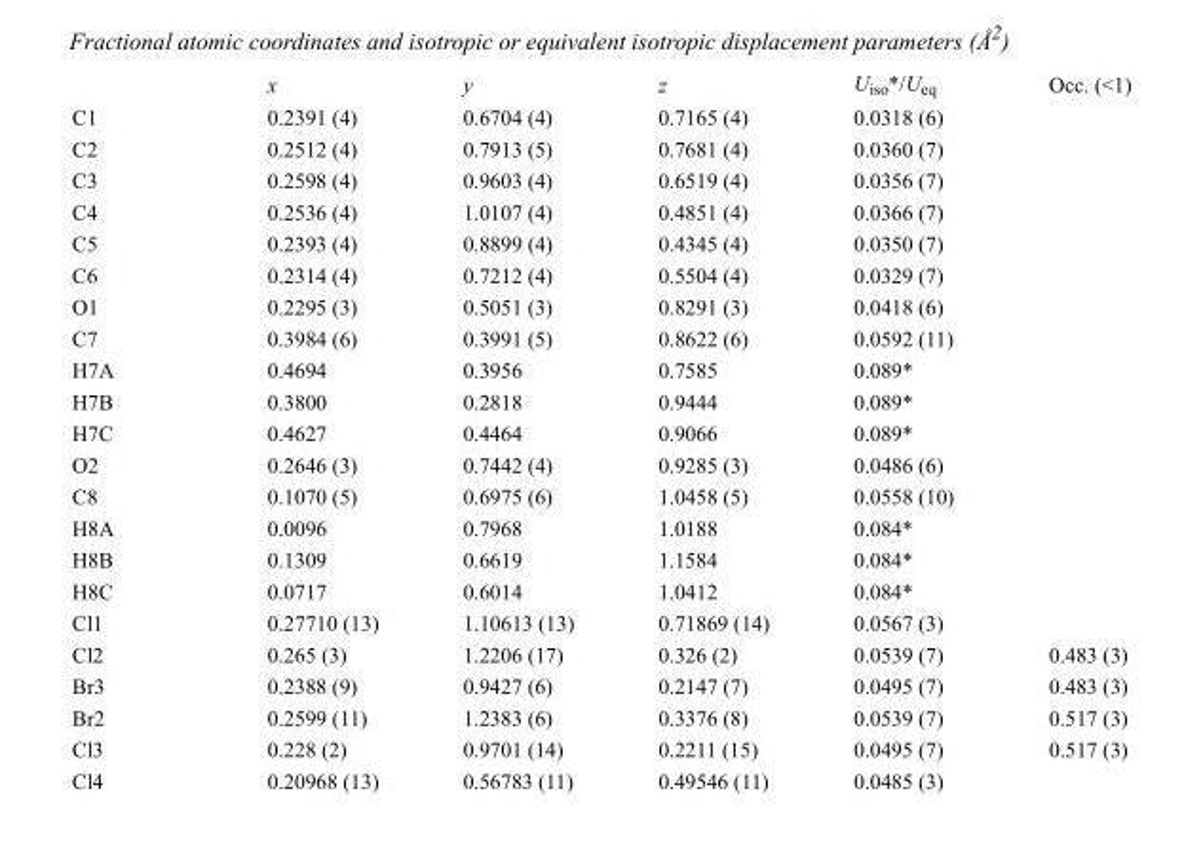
<table><thead><tr><td></td><td>x</td><td>y</td><td>z</td><td>U<sub>iso</sub>*/U<sub>eq</sub></td><td>Occ. (&lt;1)</td></tr></thead><tbody><tr><td>C1</td><td>0.2391 (4)</td><td>0.6704 (4)</td><td>0.7165 (4)</td><td>0.0318 (6)</td><td></td></tr><tr><td>C2</td><td>0.2512 (4)</td><td>0.7913 (5)</td><td>0.7681 (4)</td><td>0.0360 (7)</td><td></td></tr><tr><td>C3</td><td>0.2598 (4)</td><td>0.9603 (4)</td><td>0.6519 (4)</td><td>0.0356 (7)</td><td></td></tr><tr><td>C4</td><td>0.2536 (4)</td><td>1.0107 (4)</td><td>0.4851 (4)</td><td>0.0366 (7)</td><td></td></tr><tr><td>C5</td><td>0.2393 (4)</td><td>0.8899 (4)</td><td>0.4345 (4)</td><td>0.0350 (7)</td><td></td></tr><tr><td>C6</td><td>0.2314 (4)</td><td>0.7212 (4)</td><td>0.5504 (4)</td><td>0.0329 (7)</td><td></td></tr><tr><td>O1</td><td>0.2295 (3)</td><td>0.5051 (3)</td><td>0.8291 (3)</td><td>0.0418 (6)</td><td></td></tr><tr><td>C7</td><td>0.3984 (6)</td><td>0.3991 (5)</td><td>0.8622 (6)</td><td>0.0592 (11)</td><td></td></tr><tr><td>H7A</td><td>0.4694</td><td>0.3956</td><td>0.7585</td><td>0.089*</td><td></td></tr><tr><td>H7B</td><td>0.3800</td><td>0.2818</td><td>0.9444</td><td>0.089*</td><td></td></tr><tr><td>H7C</td><td>0.4627</td><td>0.4464</td><td>0.9066</td><td>0.089*</td><td></td></tr><tr><td>O2</td><td>0.2646 (3)</td><td>0.7442 (4)</td><td>0.9285 (3)</td><td>0.0486 (6)</td><td></td></tr><tr><td>C8</td><td>0.1070 (5)</td><td>0.6975 (6)</td><td>1.0458 (5)</td><td>0.0558 (10)</td><td></td></tr><tr><td>H8A</td><td>0.0096</td><td>0.7968</td><td>1.0188</td><td>0.084*</td><td></td></tr><tr><td>H8B</td><td>0.1309</td><td>0.6619</td><td>1.1584</td><td>0.084*</td><td></td></tr><tr><td>H8C</td><td>0.0717</td><td>0.6014</td><td>1.0412</td><td>0.084*</td><td></td></tr><tr><td>Cl1</td><td>0.27710 (13)</td><td>1.10613 (13)</td><td>0.71869 (14)</td><td>0.0567 (3)</td><td></td></tr><tr><td>Cl2</td><td>0.265 (3)</td><td>1.2206 (17)</td><td>0.326 (2)</td><td>0.0539 (7)</td><td>0.483 (3)</td></tr><tr><td>Br3</td><td>0.2388 (9)</td><td>0.9427 (6)</td><td>0.2147 (7)</td><td>0.0495 (7)</td><td>0.483 (3)</td></tr><tr><td>Br2</td><td>0.2599 (11)</td><td>1.2383 (6)</td><td>0.3376 (8)</td><td>0.0539 (7)</td><td>0.517 (3)</td></tr><tr><td>Cl3</td><td>0.228 (2)</td><td>0.9701 (14)</td><td>0.2211 (15)</td><td>0.0495 (7)</td><td>0.517 (3)</td></tr><tr><td>Cl4</td><td>0.20968 (13)</td><td>0.56783 (11)</td><td>0.49546 (11)</td><td>0.0485 (3)</td><td></td></tr></tbody></table>